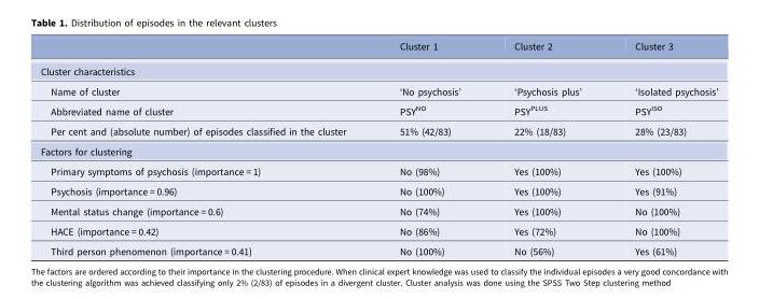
<table><thead><tr><td></td><td>Cluster 1</td><td>Cluster 2</td><td>Cluster 3</td></tr></thead><tbody><tr><td colspan="4">Cluster characteristics</td></tr><tr><td>Name of cluster</td><td>‘No psychosis’</td><td>‘Psychosis plus’</td><td>‘Isolated psychosis’</td></tr><tr><td>Abbreviated name of cluster</td><td>PSY<sup>NO</sup></td><td>PSY<sup>PLUS</sup></td><td>PSY<sup>ISO</sup></td></tr><tr><td>Per cent and (absolute number) of episodes classified in the cluster</td><td>51% (42/83)</td><td>22% (18/83)</td><td>28% (23/83)</td></tr><tr><td colspan="4">Factors for clustering</td></tr><tr><td>Primary symptoms of psychosis (importance = 1)</td><td>No (98%)</td><td>Yes (100%)</td><td>Yes (100%)</td></tr><tr><td>Psychosis (importance = 0.96)</td><td>No (100%)</td><td>Yes (100%)</td><td>Yes (91%)</td></tr><tr><td>Mental status change (importance = 0.6)</td><td>No (74%)</td><td>Yes (100%)</td><td>No (100%)</td></tr><tr><td>HACE (importance = 0.42)</td><td>No (86%)</td><td>Yes (72%)</td><td>No (100%)</td></tr><tr><td>Third person phenomenon (importance = 0.41)</td><td>No (100%)</td><td>No (56%)</td><td>Yes (61%)</td></tr></tbody></table>